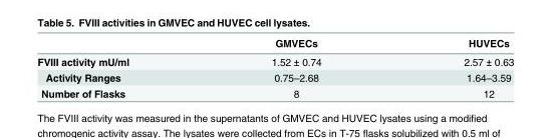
<table><thead><tr><td></td><td>GMVECs</td><td>HUVECs</td></tr></thead><tbody><tr><td>FVIII activity mU/ml</td><td>1.52 ± 0.74</td><td>2.57 ± 0.63</td></tr><tr><td>Activity Ranges</td><td>0.75–2.68</td><td>1.64–3.59</td></tr><tr><td>Number of Flasks</td><td>8</td><td>12</td></tr></tbody></table>